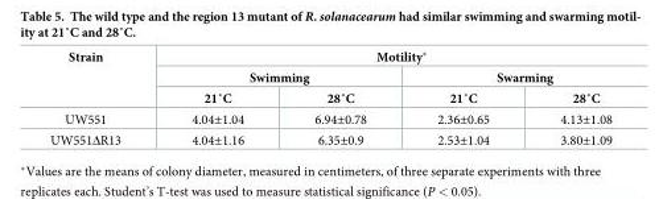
<table><thead><tr><td rowspan="3">Strain</td><td colspan="4">Motility*</td></tr><tr><td colspan="2">Swimming</td><td colspan="2">Swarming</td></tr><tr><td>21˚C</td><td>28˚C</td><td>21˚C</td><td>28˚C</td></tr></thead><tbody><tr><td>UW551</td><td>4.04±1.04</td><td>6.94±0.78</td><td>2.36±0.65</td><td>4.13±1.08</td></tr><tr><td>UW551ΔR13</td><td>4.04±1.16</td><td>6.35±0.9</td><td>2.53±1.04</td><td>3.80±1.09</td></tr></tbody></table>